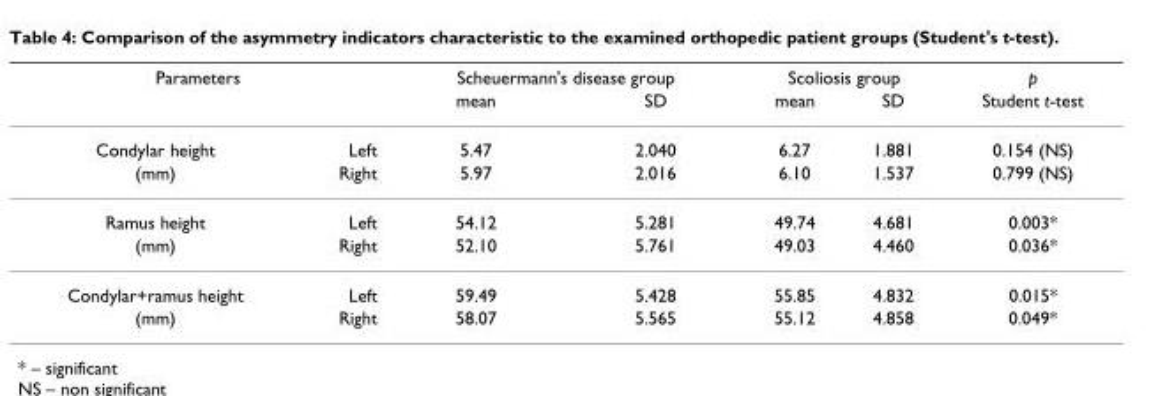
<table><thead><tr><td colspan="2">Parameters</td><td colspan="2">Scheuermann&#x27;s disease group</td><td colspan="2">Scoliosis group</td><td rowspan="2">p Student t-test</td></tr><tr><td></td><td></td><td>mean</td><td>SD</td><td>mean</td><td>SD</td></tr></thead><tbody><tr><td>Condylar height</td><td>Left</td><td>5.47</td><td>2.040</td><td>6.27</td><td>1.881</td><td>0.154 (NS)</td></tr><tr><td>(mm)</td><td>Right</td><td>5.97</td><td>2.016</td><td>6.10</td><td>1.537</td><td>0.799 (NS)</td></tr><tr><td>Ramus height</td><td>Left</td><td>54.12</td><td>5.281</td><td>49.74</td><td>4.681</td><td>0.003*</td></tr><tr><td>(mm)</td><td>Right</td><td>52.10</td><td>5.761</td><td>49.03</td><td>4.460</td><td>0.036*</td></tr><tr><td>Condylar+ramus height</td><td>Left</td><td>59.49</td><td>5.428</td><td>55.85</td><td>4.832</td><td>0.015*</td></tr><tr><td>(mm)</td><td>Right</td><td>58.07</td><td>5.565</td><td>55.12</td><td>4.858</td><td>0.049*</td></tr></tbody></table>